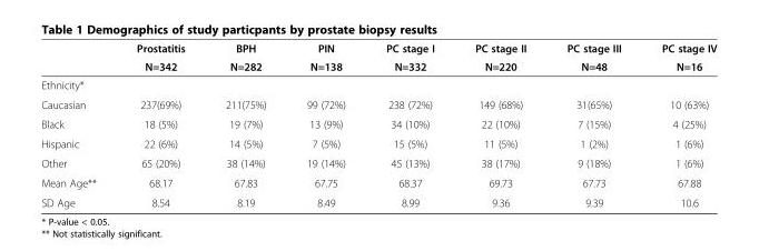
<table><thead><tr><td rowspan="2"></td><td rowspan="2">Prostatitis N=342</td><td rowspan="2">BPH N=282</td><td rowspan="2">PIN N=138</td><td rowspan="2">PC stage I N=332</td><td rowspan="2">PC stage II N=220</td><td rowspan="2">PC stage III N=48</td><td rowspan="2">PC stage IV N=16</td></tr><tr></tr></thead><tbody><tr><td colspan="8">Ethnicity*</td></tr><tr><td>Caucasian</td><td>237(69%)</td><td>211(75%)</td><td>99 (72%)</td><td>238 (72%)</td><td>149 (68%)</td><td>31(65%)</td><td>10 (63%)</td></tr><tr><td>Black</td><td>18 (5%)</td><td>19 (7%)</td><td>13 (9%)</td><td>34 (10%)</td><td>22 (10%)</td><td>7 (15%)</td><td>4 (25%)</td></tr><tr><td>Hispanic</td><td>22 (6%)</td><td>14 (5%)</td><td>7 (5%)</td><td>15 (5%)</td><td>11 (5%)</td><td>1 (2%)</td><td>1 (6%)</td></tr><tr><td>Other</td><td>65 (20%)</td><td>38 (14%)</td><td>19 (14%)</td><td>45 (13%)</td><td>38 (17%)</td><td>9 (18%)</td><td>1 (6%)</td></tr><tr><td>Mean Age**</td><td>68.17</td><td>67.83</td><td>67.75</td><td>68.37</td><td>69.73</td><td>67.73</td><td>67.88</td></tr><tr><td>SD Age</td><td>8.54</td><td>8.19</td><td>8.49</td><td>8.99</td><td>9.36</td><td>9.39</td><td>10.6</td></tr></tbody></table>